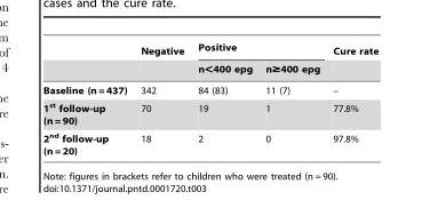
<table><thead><tr><td rowspan="2"></td><td rowspan="2">Negative</td><td colspan="2">Positive</td><td rowspan="2">Cure rate</td></tr><tr><td>n&lt;400 epg</td><td>n≥400 epg</td></tr></thead><tbody><tr><td>Baseline (n = 437)</td><td>342</td><td>84 (83)</td><td>11 (7)</td><td>–</td></tr><tr><td>1<sup>st</sup> follow-up (n = 90)</td><td>70</td><td>19</td><td>1</td><td>77.8%</td></tr><tr><td>2<sup>nd</sup> follow-up (n = 20)</td><td>18</td><td>2</td><td>0</td><td>97.8%</td></tr></tbody></table>